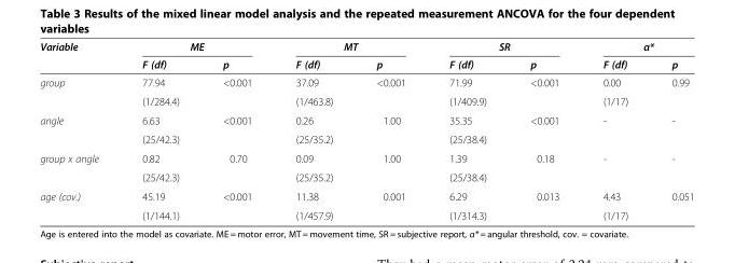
<table><thead><tr><td rowspan="2">Variable</td><td colspan="2">ME</td><td colspan="2">MT</td><td colspan="2">SR</td><td colspan="2">α*</td></tr><tr><td>F (df)</td><td>p</td><td>F (df)</td><td>p</td><td>F (df)</td><td>p</td><td>F (df)</td><td>p</td></tr></thead><tbody><tr><td rowspan="2">group</td><td>77.94</td><td>&lt;0.001</td><td>37.09</td><td>&lt;0.001</td><td>71.99</td><td>&lt;0.001</td><td>0.00</td><td>0.99</td></tr><tr><td>(1/284.4)</td><td></td><td>(1/463.8)</td><td></td><td>(1/409.9)</td><td></td><td>(1/17)</td><td></td></tr><tr><td rowspan="2">angle</td><td>6.63</td><td>&lt;0.001</td><td>0.26</td><td>1.00</td><td>35.35</td><td>&lt;0.001</td><td>-</td><td>-</td></tr><tr><td>(25/42.3)</td><td></td><td>(25/35.2)</td><td></td><td>(25/38.4)</td><td></td><td></td><td></td></tr><tr><td rowspan="2">group x angle</td><td>0.82</td><td>0.70</td><td>0.09</td><td>1.00</td><td>1.39</td><td>0.18</td><td>-</td><td>-</td></tr><tr><td>(25/42.3)</td><td></td><td>(25/35.2)</td><td></td><td>(25/38.4)</td><td></td><td></td><td></td></tr><tr><td rowspan="2">age (cov.)</td><td>45.19</td><td>&lt;0.001</td><td>11.38</td><td>0.001</td><td>6.29</td><td>0.013</td><td>4.43</td><td>0.051</td></tr><tr><td>(1/144.1)</td><td></td><td>(1/457.9)</td><td></td><td>(1/314.3)</td><td></td><td>(1/17)</td><td></td></tr></tbody></table>